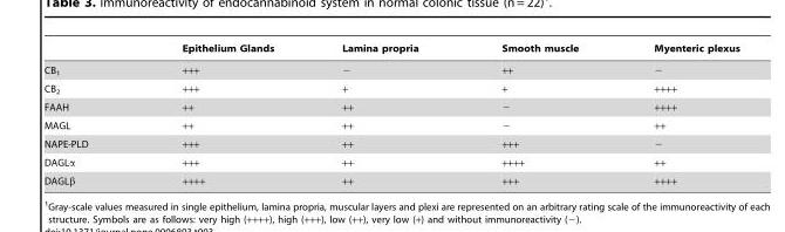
<table><thead><tr><td></td><td>Epithelium Glands</td><td>Lamina propria</td><td>Smooth muscle</td><td>Myenteric plexus</td></tr></thead><tbody><tr><td>CB<sub>1</sub></td><td>+++</td><td>−</td><td>++</td><td>−</td></tr><tr><td>CB<sub>2</sub></td><td>+++</td><td>+</td><td>+</td><td>++++</td></tr><tr><td>FAAH</td><td>++</td><td>++</td><td>−</td><td>++++</td></tr><tr><td>MAGL</td><td>++</td><td>++</td><td>−</td><td>++</td></tr><tr><td>NAPE-PLD</td><td>+++</td><td>++</td><td>+++</td><td>−</td></tr><tr><td>DAGLα</td><td>+++</td><td>++</td><td>++++</td><td>++</td></tr><tr><td>DAGLβ</td><td>++++</td><td>++</td><td>+++</td><td>++++</td></tr></tbody></table>